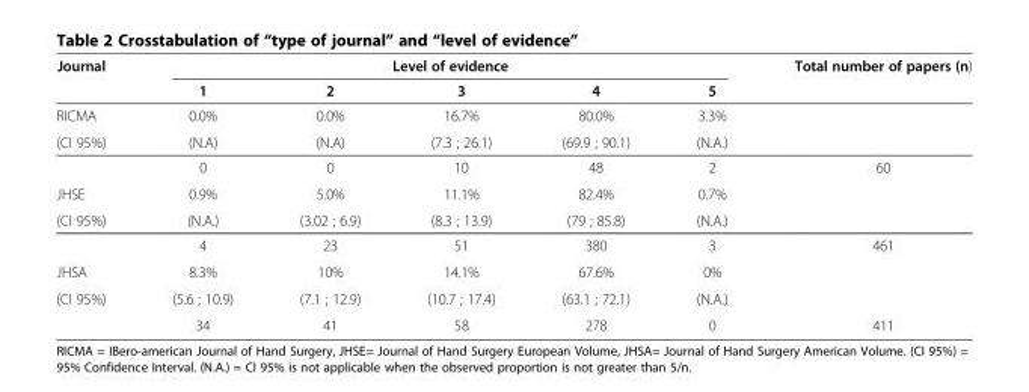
<table><thead><tr><td rowspan="2">Journal</td><td colspan="5">Level of evidence</td><td rowspan="2">Total number of papers (n)</td></tr><tr><td>1</td><td>2</td><td>3</td><td>4</td><td>5</td></tr></thead><tbody><tr><td>RICMA</td><td>0.0%</td><td>0.0%</td><td>16.7%</td><td>80.0%</td><td>3.3%</td><td></td></tr><tr><td rowspan="2">(CI 95%)</td><td>(N.A)</td><td>(N.A)</td><td>(7.3 ; 26.1)</td><td>(69.9 ; 90.1)</td><td>(N.A.)</td><td></td></tr><tr><td>0</td><td>0</td><td>10</td><td>48</td><td>2</td><td>60</td></tr><tr><td>JHSE</td><td>0.9%</td><td>5.0%</td><td>11.1%</td><td>82.4%</td><td>0.7%</td><td></td></tr><tr><td rowspan="2">(CI 95%)</td><td>(N.A.)</td><td>(3.02 ; 6.9)</td><td>(8.3 ; 13.9)</td><td>(79 ; 85.8)</td><td>(N.A.)</td><td></td></tr><tr><td>4</td><td>23</td><td>51</td><td>380</td><td>3</td><td>461</td></tr><tr><td>JHSA</td><td>8.3%</td><td>10%</td><td>14.1%</td><td>67.6%</td><td>0%</td><td></td></tr><tr><td rowspan="2">(CI 95%)</td><td>(5.6 ; 10.9)</td><td>(7.1 ; 12.9)</td><td>(10.7 ; 17.4)</td><td>(63.1 ; 72.1)</td><td>(N.A.)</td><td></td></tr><tr><td>34</td><td>41</td><td>58</td><td>278</td><td>0</td><td>411</td></tr></tbody></table>